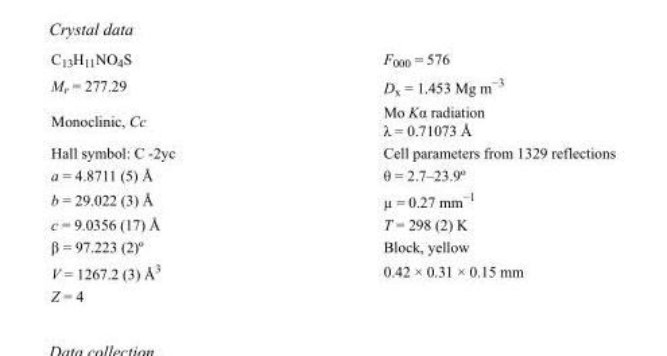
<table><tbody><tr><td>C<sub>13</sub>H<sub>11</sub>NO<sub>4</sub>S</td><td>F<sub>000</sub> = 576</td></tr><tr><td>M<sub>r</sub> = 277.29</td><td>D<sub>x</sub> = 1.453 Mg m<sup>−3</sup></td></tr><tr><td>Monoclinic, Cc</td><td>Mo Kα radiation λ = 0.71073 Å</td></tr><tr><td>Hall symbol: C -2yc</td><td>Cell parameters from 1329 reflections</td></tr><tr><td>a = 4.8711 (5) Å</td><td>θ = 2.7–23.9º</td></tr><tr><td>b = 29.022 (3) Å</td><td>µ = 0.27 mm<sup>−1</sup></td></tr><tr><td>c = 9.0356 (17) Å</td><td>T = 298 (2) K</td></tr><tr><td>β = 97.223 (2)º</td><td>Block, yellow</td></tr><tr><td>V = 1267.2 (3) Å<sup>3</sup></td><td>0.42 × 0.31 × 0.15 mm</td></tr><tr><td>Z = 4</td><td></td></tr></tbody></table>